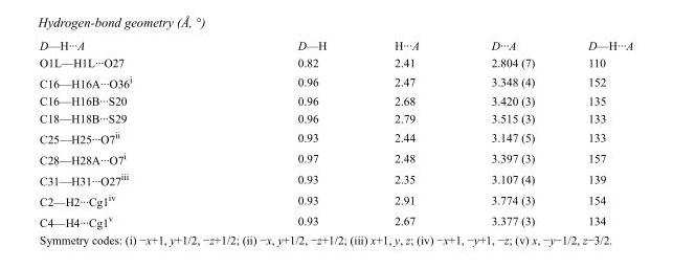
<table><tbody><tr><td>D—H···A</td><td>D—H</td><td>H···A</td><td>D···A</td><td>D—H···A</td></tr><tr><td>O1L—H1L···O27</td><td>0.82</td><td>2.41</td><td>2.804 (7)</td><td>110</td></tr><tr><td>C16—H16A···O36<sup>i</sup></td><td>0.96</td><td>2.47</td><td>3.348 (4)</td><td>152</td></tr><tr><td>C16—H16B···S20</td><td>0.96</td><td>2.68</td><td>3.420 (3)</td><td>135</td></tr><tr><td>C18—H18B···S29</td><td>0.96</td><td>2.79</td><td>3.515 (3)</td><td>133</td></tr><tr><td>C25—H25···O7<sup>ii</sup></td><td>0.93</td><td>2.44</td><td>3.147 (5)</td><td>133</td></tr><tr><td>C28—H28A···O7<sup>i</sup></td><td>0.97</td><td>2.48</td><td>3.397 (3)</td><td>157</td></tr><tr><td>C31—H31···O27<sup>iii</sup></td><td>0.93</td><td>2.35</td><td>3.107 (4)</td><td>139</td></tr><tr><td>C2—H2···Cg1<sup>iv</sup></td><td>0.93</td><td>2.91</td><td>3.774 (3)</td><td>154</td></tr><tr><td>C4—H4···Cg1<sup>v</sup></td><td>0.93</td><td>2.67</td><td>3.377 (3)</td><td>134</td></tr></tbody></table>